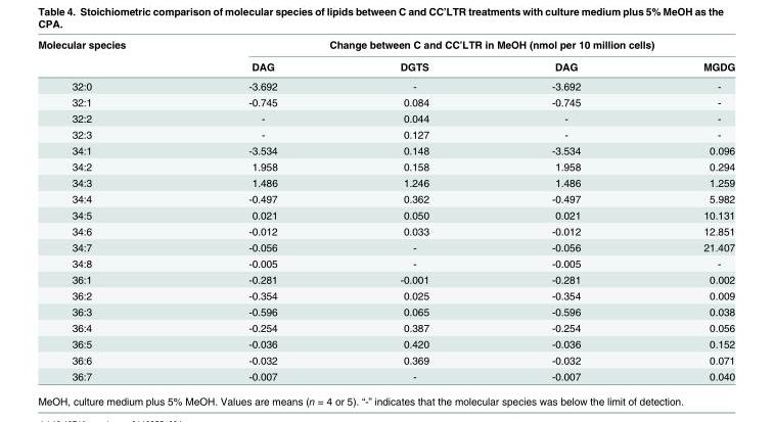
<table><thead><tr><td rowspan="2">Molecular species</td><td colspan="4">Change between C and CC’LTR in MeOH (nmol per 10 million cells)</td></tr><tr><td>DAG</td><td>DGTS</td><td>DAG</td><td>MGDG</td></tr></thead><tbody><tr><td>32:0</td><td>-3.692</td><td>-</td><td>-3.692</td><td>-</td></tr><tr><td>32:1</td><td>-0.745</td><td>0.084</td><td>-0.745</td><td>-</td></tr><tr><td>32:2</td><td>-</td><td>0.044</td><td>-</td><td>-</td></tr><tr><td>32:3</td><td>-</td><td>0.127</td><td>-</td><td>-</td></tr><tr><td>34:1</td><td>-3.534</td><td>0.148</td><td>-3.534</td><td>0.096</td></tr><tr><td>34:2</td><td>1.958</td><td>0.158</td><td>1.958</td><td>0.294</td></tr><tr><td>34:3</td><td>1.486</td><td>1.246</td><td>1.486</td><td>1.259</td></tr><tr><td>34:4</td><td>-0.497</td><td>0.362</td><td>-0.497</td><td>5.982</td></tr><tr><td>34:5</td><td>0.021</td><td>0.050</td><td>0.021</td><td>10.131</td></tr><tr><td>34:6</td><td>-0.012</td><td>0.033</td><td>-0.012</td><td>12.851</td></tr><tr><td>34:7</td><td>-0.056</td><td>-</td><td>-0.056</td><td>21.407</td></tr><tr><td>34:8</td><td>-0.005</td><td>-</td><td>-0.005</td><td>-</td></tr><tr><td>36:1</td><td>-0.281</td><td>-0.001</td><td>-0.281</td><td>0.002</td></tr><tr><td>36:2</td><td>-0.354</td><td>0.025</td><td>-0.354</td><td>0.009</td></tr><tr><td>36:3</td><td>-0.596</td><td>0.065</td><td>-0.596</td><td>0.038</td></tr><tr><td>36:4</td><td>-0.254</td><td>0.387</td><td>-0.254</td><td>0.056</td></tr><tr><td>36:5</td><td>-0.036</td><td>0.420</td><td>-0.036</td><td>0.152</td></tr><tr><td>36:6</td><td>-0.032</td><td>0.369</td><td>-0.032</td><td>0.071</td></tr><tr><td>36:7</td><td>-0.007</td><td>-</td><td>-0.007</td><td>0.040</td></tr></tbody></table>